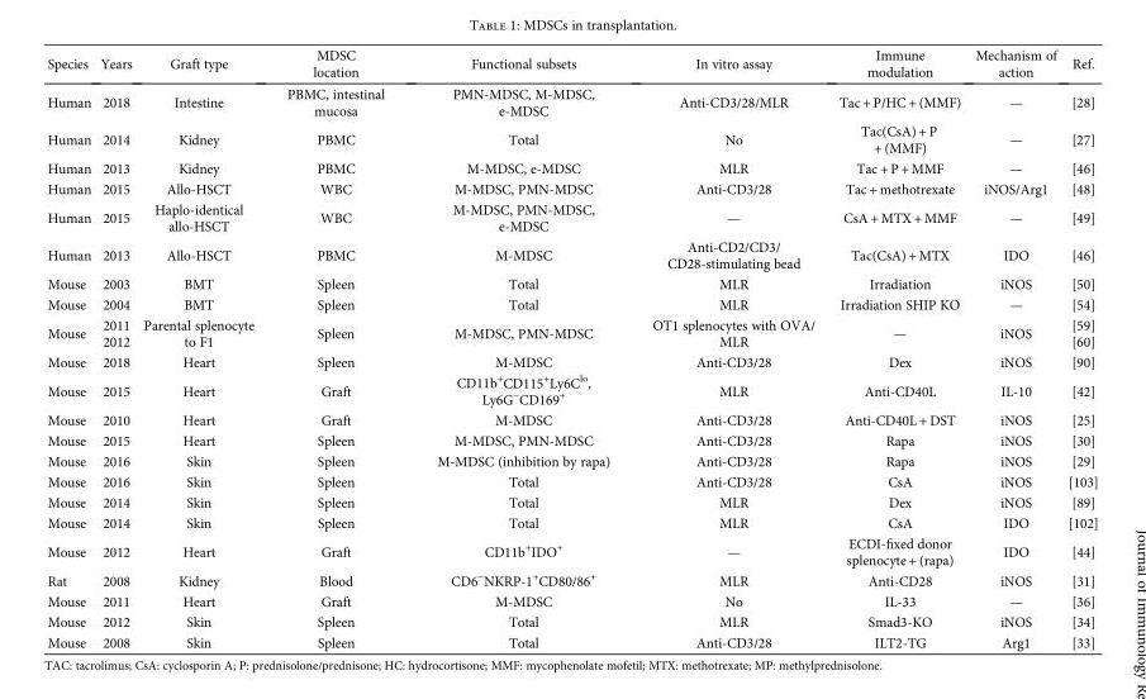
<table><thead><tr><td>Species</td><td>Years</td><td>Graft type</td><td>MDSC location</td><td>Functional subsets</td><td>In vitro assay</td><td>Immune modulation</td><td>Mechanism of action</td><td>Ref.</td></tr></thead><tbody><tr><td>Human</td><td>2018</td><td>Intestine</td><td>PBMC, intestinal mucosa</td><td>PMN-MDSC, M-MDSC, e-MDSC</td><td>Anti-CD3/28/MLR</td><td>Tac + P/HC + (MMF)</td><td>—</td><td>[28]</td></tr><tr><td>Human</td><td>2014</td><td>Kidney</td><td>PBMC</td><td>Total</td><td>No</td><td>Tac(CsA) + P + (MMF)</td><td>—</td><td>[27]</td></tr><tr><td>Human</td><td>2013</td><td>Kidney</td><td>PBMC</td><td>M-MDSC, e-MDSC</td><td>MLR</td><td>Tac + P + MMF</td><td>—</td><td>[46]</td></tr><tr><td>Human</td><td>2015</td><td>Allo-HSCT</td><td>WBC</td><td>M-MDSC, PMN-MDSC</td><td>Anti-CD3/28</td><td>Tac + methotrexate</td><td>iNOS/Arg1</td><td>[48]</td></tr><tr><td>Human</td><td>2015</td><td>Haplo-identical allo-HSCT</td><td>WBC</td><td>M-MDSC, PMN-MDSC, e-MDSC</td><td>—</td><td>CsA + MTX + MMF</td><td>—</td><td>[49]</td></tr><tr><td>Human</td><td>2013</td><td>Allo-HSCT</td><td>PBMC</td><td>M-MDSC</td><td>Anti-CD2/CD3/ CD28-stimulating bead</td><td>Tac(CsA) + MTX</td><td>IDO</td><td>[46]</td></tr><tr><td>Mouse</td><td>2003</td><td>BMT</td><td>Spleen</td><td>Total</td><td>MLR</td><td>Irradiation</td><td>iNOS</td><td>[50]</td></tr><tr><td>Mouse</td><td>2004</td><td>BMT</td><td>Spleen</td><td>Total</td><td>MLR</td><td>Irradiation SHIP KO</td><td>—</td><td>[54]</td></tr><tr><td>Mouse</td><td>2011 2012</td><td>Parental splenocyte to F1</td><td>Spleen</td><td>M-MDSC, PMN-MDSC</td><td>OT1 splenocytes with OVA/ MLR</td><td>—</td><td>iNOS</td><td>[59] [60]</td></tr><tr><td>Mouse</td><td>2018</td><td>Heart</td><td>Spleen</td><td>M-MDSC</td><td>Anti-CD3/28</td><td>Dex</td><td>iNOS</td><td>[90]</td></tr><tr><td>Mouse</td><td>2015</td><td>Heart</td><td>Graft</td><td>CD11b<sup>+</sup>CD115<sup>+</sup>Ly6C<sup>lo</sup>, Ly6G<sup>−</sup>CD169<sup>+</sup></td><td>MLR</td><td>Anti-CD40L</td><td>IL-10</td><td>[42]</td></tr><tr><td>Mouse</td><td>2010</td><td>Heart</td><td>Graft</td><td>M-MDSC</td><td>Anti-CD3/28</td><td>Anti-CD40L + DST</td><td>iNOS</td><td>[25]</td></tr><tr><td>Mouse</td><td>2015</td><td>Heart</td><td>Spleen</td><td>M-MDSC, PMN-MDSC</td><td>Anti-CD3/28</td><td>Rapa</td><td>iNOS</td><td>[30]</td></tr><tr><td>Mouse</td><td>2016</td><td>Skin</td><td>Spleen</td><td>M-MDSC (inhibition by rapa)</td><td>Anti-CD3/28</td><td>Rapa</td><td>iNOS</td><td>[29]</td></tr><tr><td>Mouse</td><td>2016</td><td>Skin</td><td>Spleen</td><td>Total</td><td>Anti-CD3/28</td><td>CsA</td><td>iNOS</td><td>[103]</td></tr><tr><td>Mouse</td><td>2014</td><td>Skin</td><td>Spleen</td><td>Total</td><td>MLR</td><td>Dex</td><td>iNOS</td><td>[89]</td></tr><tr><td>Mouse</td><td>2014</td><td>Skin</td><td>Spleen</td><td>Total</td><td>MLR</td><td>CsA</td><td>IDO</td><td>[102]</td></tr><tr><td>Mouse</td><td>2012</td><td>Heart</td><td>Graft</td><td>CD11b<sup>+</sup>IDO<sup>+</sup></td><td>—</td><td>ECDI-fixed donor splenocyte + (rapa)</td><td>IDO</td><td>[44]</td></tr><tr><td>Rat</td><td>2008</td><td>Kidney</td><td>Blood</td><td>CD6<sup>−</sup>NKRP-1<sup>+</sup>CD80/86<sup>+</sup></td><td>MLR</td><td>Anti-CD28</td><td>iNOS</td><td>[31]</td></tr><tr><td>Mouse</td><td>2011</td><td>Heart</td><td>Graft</td><td>M-MDSC</td><td>No</td><td>IL-33</td><td>—</td><td>[36]</td></tr><tr><td>Mouse</td><td>2012</td><td>Skin</td><td>Spleen</td><td>Total</td><td>MLR</td><td>Smad3-KO</td><td>iNOS</td><td>[34]</td></tr><tr><td>Mouse</td><td>2008</td><td>Skin</td><td>Spleen</td><td>Total</td><td>Anti-CD3/28</td><td>ILT2-TG</td><td>Arg1</td><td>[33]</td></tr></tbody></table>